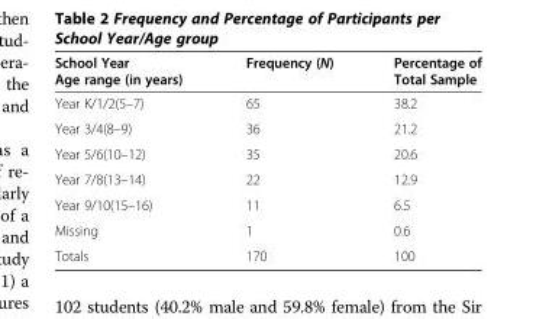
<table><thead><tr><td>School Year Age range (in years)</td><td>Frequency (N)</td><td>Percentage of Total Sample</td></tr></thead><tbody><tr><td>Year K/1/2(5–7)</td><td>65</td><td>38.2</td></tr><tr><td>Year 3/4(8–9)</td><td>36</td><td>21.2</td></tr><tr><td>Year 5/6(10–12)</td><td>35</td><td>20.6</td></tr><tr><td>Year 7/8(13–14)</td><td>22</td><td>12.9</td></tr><tr><td>Year 9/10(15–16)</td><td>11</td><td>6.5</td></tr><tr><td>Missing</td><td>1</td><td>0.6</td></tr><tr><td>Totals</td><td>170</td><td>100</td></tr></tbody></table>